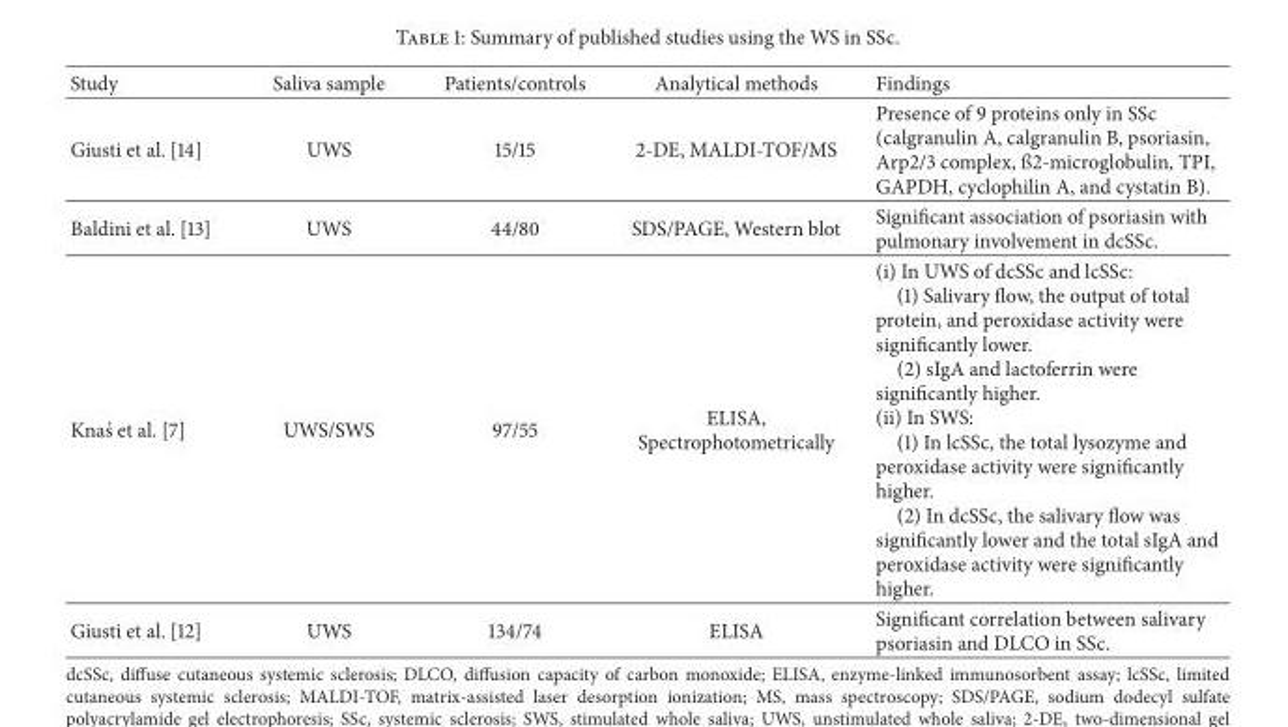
<table><thead><tr><td>Study</td><td>Saliva sample</td><td>Patients/controls</td><td>Analytical methods</td><td>Findings</td></tr></thead><tbody><tr><td>Giusti et al. [14]</td><td>UWS</td><td>15/15</td><td>2-DE, MALDI-TOF/MS</td><td>Presence of 9 proteins only in SSc (calgranulin A, calgranulin B, psoriasin, Arp2/3 complex, ß2-microglobulin, TPI, GAPDH, cyclophilin A, and cystatin B).</td></tr><tr><td>Baldini et al. [13]</td><td>UWS</td><td>44/80</td><td>SDS/PAGE, Western blot</td><td>Significant association of psoriasin with pulmonary involvement in dcSSc.</td></tr><tr><td>Kna´s et al. [7]</td><td>UWS/SWS</td><td>97/55</td><td>ELISA, Spectrophotometrically</td><td>(i) In UWS of dcSSc and lcSSc: (1) Salivary flow, the output of total protein, and peroxidase activity were significantly lower. (2) sIgA and lactoferrin were significantly higher. (ii) In SWS: (1) In lcSSc, the total lysozyme and peroxidase activity were significantly higher. (2) In dcSSc, the salivary flow was significantly lower and the total sIgA and peroxidase activity were significantly higher.</td></tr><tr><td>Giusti et al. [12]</td><td>UWS</td><td>134/74</td><td>ELISA</td><td>Significant correlation between salivary psoriasin and DLCO in SSc.</td></tr></tbody></table>